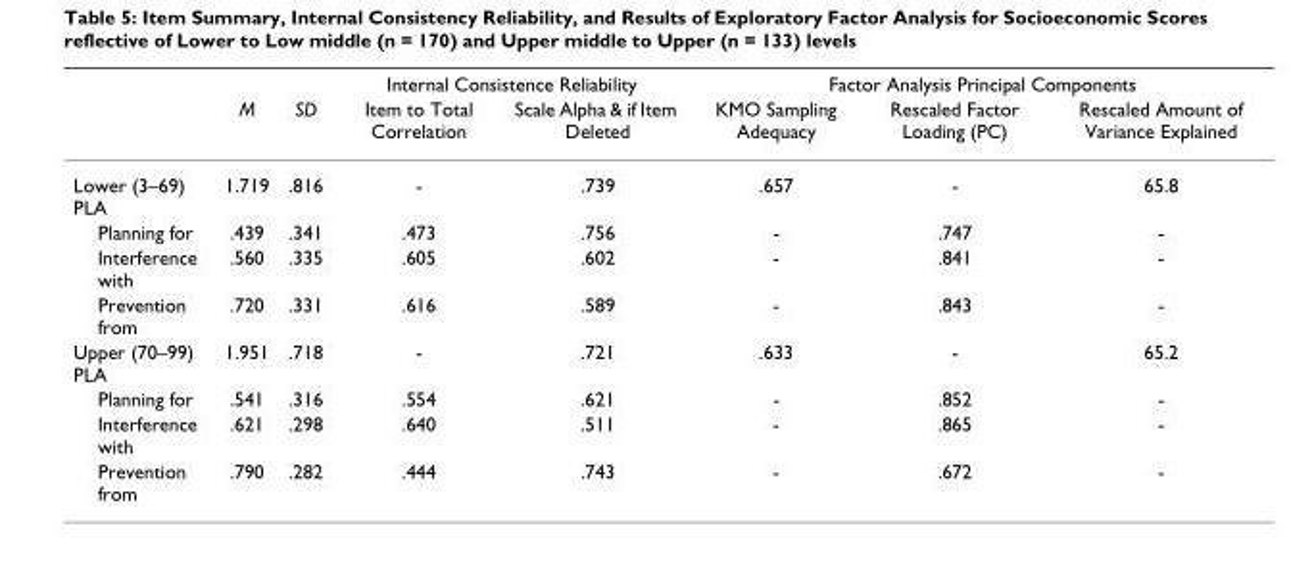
<table><thead><tr><td rowspan="2"></td><td rowspan="2">M</td><td rowspan="2">SD</td><td colspan="2">Internal Consistence Reliability</td><td colspan="3">Factor Analysis Principal Components</td></tr><tr><td>Item to Total Correlation</td><td>Scale Alpha &amp; if Item Deleted</td><td>KMO Sampling Adequacy</td><td>Rescaled Factor Loading (PC)</td><td>Rescaled Amount of Variance Explained</td></tr></thead><tbody><tr><td>Lower (3–69) PLA</td><td>1.719</td><td>.816</td><td>-</td><td>.739</td><td>.657</td><td>-</td><td>65.8</td></tr><tr><td>Planning for</td><td>.439</td><td>.341</td><td>.473</td><td>.756</td><td>-</td><td>.747</td><td>-</td></tr><tr><td>Interference with</td><td>.560</td><td>.335</td><td>.605</td><td>.602</td><td>-</td><td>.841</td><td>-</td></tr><tr><td>Prevention from</td><td>.720</td><td>.331</td><td>.616</td><td>.589</td><td>-</td><td>.843</td><td>-</td></tr><tr><td>Upper (70–99) PLA</td><td>1.951</td><td>.718</td><td>-</td><td>.721</td><td>.633</td><td>-</td><td>65.2</td></tr><tr><td>Planning for</td><td>.541</td><td>.316</td><td>.554</td><td>.621</td><td>-</td><td>.852</td><td>-</td></tr><tr><td>Interference with</td><td>.621</td><td>.298</td><td>.640</td><td>.511</td><td>-</td><td>.865</td><td>-</td></tr><tr><td>Prevention from</td><td>.790</td><td>.282</td><td>.444</td><td>.743</td><td>-</td><td>.672</td><td>-</td></tr></tbody></table>